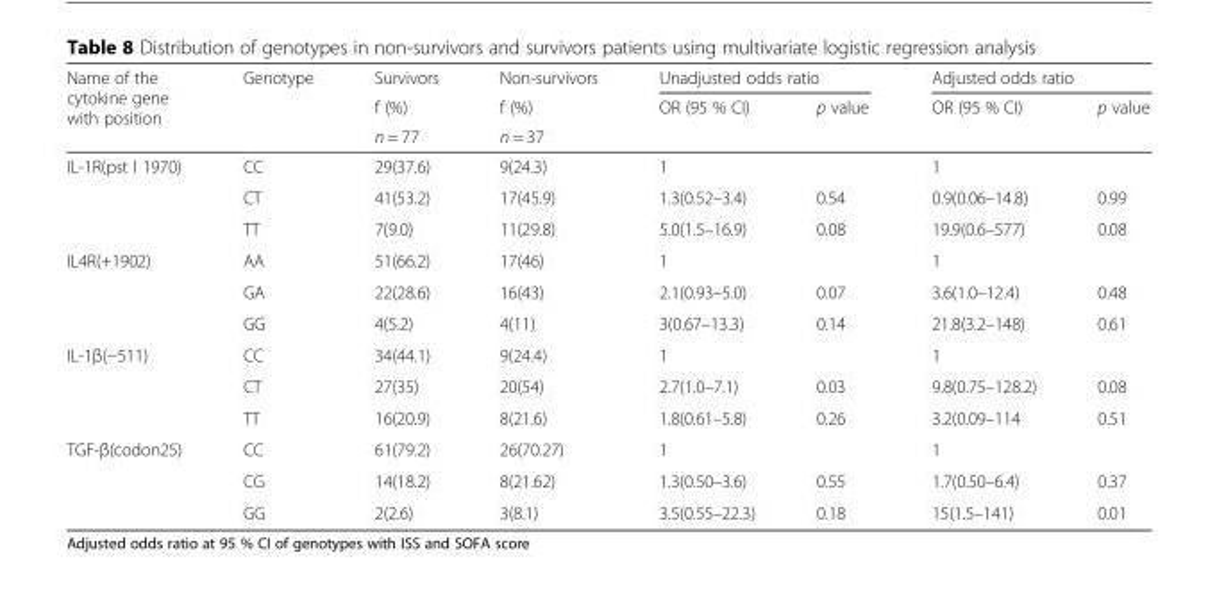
<table><thead><tr><td rowspan="3">Name of the cytokine gene with position</td><td rowspan="3">Genotype</td><td rowspan="3">Survivors f (%) n = 77</td><td rowspan="3">Non-survivors f (%) n = 37</td><td colspan="2">Unadjusted odds ratio</td><td colspan="2">Adjusted odds ratio</td></tr><tr><td rowspan="2">OR (95 % CI)</td><td rowspan="2">p value</td><td rowspan="2">OR (95 % CI)</td><td rowspan="2">p value</td></tr><tr></tr></thead><tbody><tr><td rowspan="3">IL-1R(pst I 1970)</td><td>CC</td><td>29(37.6)</td><td>9(24.3)</td><td>1</td><td></td><td>1</td><td></td></tr><tr><td>CT</td><td>41(53.2)</td><td>17(45.9)</td><td>1.3(0.52–3.4)</td><td>0.54</td><td>0.9(0.06–14.8)</td><td>0.99</td></tr><tr><td>TT</td><td>7(9.0)</td><td>11(29.8)</td><td>5.0(1.5–16.9)</td><td>0.08</td><td>19.9(0.6–577)</td><td>0.08</td></tr><tr><td rowspan="3">IL4R(+1902)</td><td>AA</td><td>51(66.2)</td><td>17(46)</td><td>1</td><td></td><td>1</td><td></td></tr><tr><td>GA</td><td>22(28.6)</td><td>16(43)</td><td>2.1(0.93–5.0)</td><td>0.07</td><td>3.6(1.0–12.4)</td><td>0.48</td></tr><tr><td>GG</td><td>4(5.2)</td><td>4(11)</td><td>3(0.67–13.3)</td><td>0.14</td><td>21.8(3.2–148)</td><td>0.61</td></tr><tr><td rowspan="3">IL-1β(−511)</td><td>CC</td><td>34(44.1)</td><td>9(24.4)</td><td>1</td><td></td><td>1</td><td></td></tr><tr><td>CT</td><td>27(35)</td><td>20(54)</td><td>2.7(1.0–7.1)</td><td>0.03</td><td>9.8(0.75–128.2)</td><td>0.08</td></tr><tr><td>TT</td><td>16(20.9)</td><td>8(21.6)</td><td>1.8(0.61–5.8)</td><td>0.26</td><td>3.2(0.09–114</td><td>0.51</td></tr><tr><td rowspan="3">TGF-β(codon25)</td><td>CC</td><td>61(79.2)</td><td>26(70.27)</td><td>1</td><td></td><td>1</td><td></td></tr><tr><td>CG</td><td>14(18.2)</td><td>8(21.62)</td><td>1.3(0.50–3.6)</td><td>0.55</td><td>1.7(0.50–6.4)</td><td>0.37</td></tr><tr><td>GG</td><td>2(2.6)</td><td>3(8.1)</td><td>3.5(0.55–22.3)</td><td>0.18</td><td>15(1.5–141)</td><td>0.01</td></tr></tbody></table>